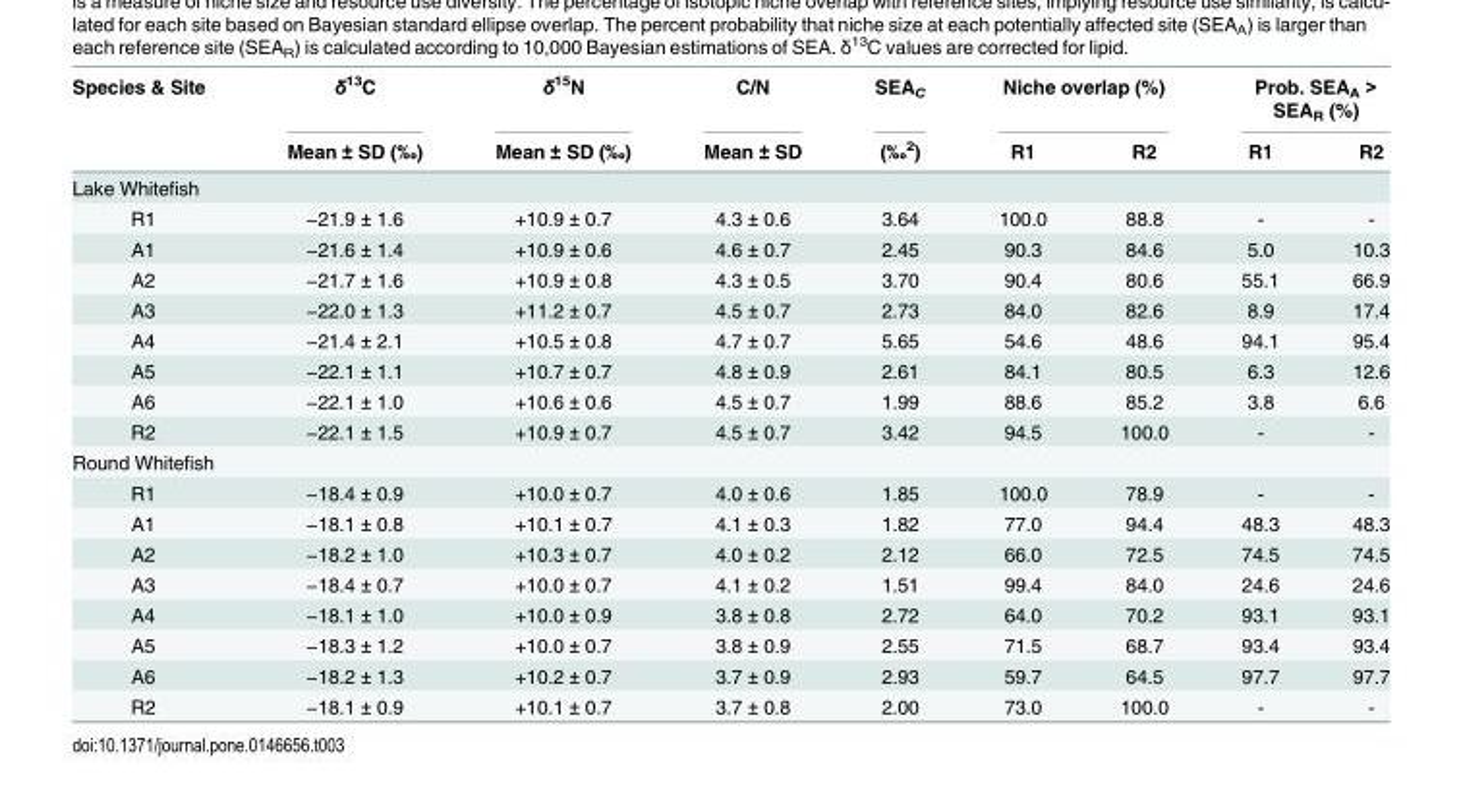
<table><thead><tr><td rowspan="2">Species &amp; Site</td><td rowspan="2">δ<sup>13</sup>C Mean ± SD (‰)</td><td rowspan="2">δ<sup>15</sup>N Mean ± SD (‰)</td><td rowspan="2">C/N Mean ± SD</td><td rowspan="2">SEA<sub>C</sub> (‰<sup>2</sup>)</td><td colspan="2">Niche overlap (%)</td><td colspan="2">Prob. SEA<sub>A</sub> &gt; SEA<sub>R</sub> (%)</td></tr><tr><td>R1</td><td>R2</td><td>R1</td><td>R2</td></tr></thead><tbody><tr><td colspan="9">Lake Whitefish</td></tr><tr><td>R1</td><td>−21.9 ± 1.6</td><td>+10.9 ± 0.7</td><td>4.3 ± 0.6</td><td>3.64</td><td>100.0</td><td>88.8</td><td>-</td><td>-</td></tr><tr><td>A1</td><td>−21.6 ± 1.4</td><td>+10.9 ± 0.6</td><td>4.6 ± 0.7</td><td>2.45</td><td>90.3</td><td>84.6</td><td>5.0</td><td>10.3</td></tr><tr><td>A2</td><td>−21.7 ± 1.6</td><td>+10.9 ± 0.8</td><td>4.3 ± 0.5</td><td>3.70</td><td>90.4</td><td>80.6</td><td>55.1</td><td>66.9</td></tr><tr><td>A3</td><td>−22.0 ± 1.3</td><td>+11.2 ± 0.7</td><td>4.5 ± 0.7</td><td>2.73</td><td>84.0</td><td>82.6</td><td>8.9</td><td>17.4</td></tr><tr><td>A4</td><td>−21.4 ± 2.1</td><td>+10.5 ± 0.8</td><td>4.7 ± 0.7</td><td>5.65</td><td>54.6</td><td>48.6</td><td>94.1</td><td>95.4</td></tr><tr><td>A5</td><td>−22.1 ± 1.1</td><td>+10.7 ± 0.7</td><td>4.8 ± 0.9</td><td>2.61</td><td>84.1</td><td>80.5</td><td>6.3</td><td>12.6</td></tr><tr><td>A6</td><td>−22.1 ± 1.0</td><td>+10.6 ± 0.6</td><td>4.5 ± 0.7</td><td>1.99</td><td>88.6</td><td>85.2</td><td>3.8</td><td>6.6</td></tr><tr><td>R2</td><td>−22.1 ± 1.5</td><td>+10.9 ± 0.7</td><td>4.5 ± 0.7</td><td>3.42</td><td>94.5</td><td>100.0</td><td>-</td><td>-</td></tr><tr><td colspan="9">Round Whitefish</td></tr><tr><td>R1</td><td>−18.4 ± 0.9</td><td>+10.0 ± 0.7</td><td>4.0 ± 0.6</td><td>1.85</td><td>100.0</td><td>78.9</td><td>-</td><td>-</td></tr><tr><td>A1</td><td>−18.1 ± 0.8</td><td>+10.1 ± 0.7</td><td>4.1 ± 0.3</td><td>1.82</td><td>77.0</td><td>94.4</td><td>48.3</td><td>48.3</td></tr><tr><td>A2</td><td>−18.2 ± 1.0</td><td>+10.3 ± 0.7</td><td>4.0 ± 0.2</td><td>2.12</td><td>66.0</td><td>72.5</td><td>74.5</td><td>74.5</td></tr><tr><td>A3</td><td>−18.4 ± 0.7</td><td>+10.0 ± 0.7</td><td>4.1 ± 0.2</td><td>1.51</td><td>99.4</td><td>84.0</td><td>24.6</td><td>24.6</td></tr><tr><td>A4</td><td>−18.1 ± 1.0</td><td>+10.0 ± 0.9</td><td>3.8 ± 0.8</td><td>2.72</td><td>64.0</td><td>70.2</td><td>93.1</td><td>93.1</td></tr><tr><td>A5</td><td>−18.3 ± 1.2</td><td>+10.0 ± 0.7</td><td>3.8 ± 0.9</td><td>2.55</td><td>71.5</td><td>68.7</td><td>93.4</td><td>93.4</td></tr><tr><td>A6</td><td>−18.2 ± 1.3</td><td>+10.2 ± 0.7</td><td>3.7 ± 0.9</td><td>2.93</td><td>59.7</td><td>64.5</td><td>97.7</td><td>97.7</td></tr><tr><td>R2</td><td>−18.1 ± 0.9</td><td>+10.1 ± 0.7</td><td>3.7 ± 0.8</td><td>2.00</td><td>73.0</td><td>100.0</td><td>-</td><td>-</td></tr></tbody></table>